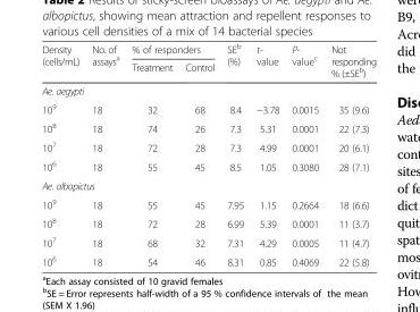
<table><thead><tr><td rowspan="2">Density (cells/mL)</td><td rowspan="2">No. of assays<sup>a</sup></td><td colspan="2">% of responders</td><td rowspan="2">SE<sup>b</sup> (%)</td><td rowspan="2">t- value</td><td rowspan="2">P- value<sup>c</sup></td><td rowspan="2">Not responding % (±SE<sup>b</sup>)</td></tr><tr><td>Treatment</td><td>Control</td></tr></thead><tbody><tr><td colspan="8">Ae. aegypti</td></tr><tr><td>10<sup>9</sup></td><td>18</td><td>32</td><td>68</td><td>8.4</td><td>−3.78</td><td>0.0015</td><td>35 (9.6)</td></tr><tr><td>10<sup>8</sup></td><td>18</td><td>74</td><td>26</td><td>7.3</td><td>5.31</td><td>0.0001</td><td>22 (7.3)</td></tr><tr><td>10<sup>7</sup></td><td>18</td><td>72</td><td>28</td><td>7.3</td><td>4.99</td><td>0.0001</td><td>20 (6.1)</td></tr><tr><td>10<sup>6</sup></td><td>18</td><td>55</td><td>45</td><td>8.5</td><td>1.05</td><td>0.3080</td><td>28 (7.1)</td></tr><tr><td colspan="8">Ae. albopictus</td></tr><tr><td>10<sup>9</sup></td><td>18</td><td>55</td><td>45</td><td>7.95</td><td>1.15</td><td>0.2664</td><td>18 (6.6)</td></tr><tr><td>10<sup>8</sup></td><td>18</td><td>72</td><td>28</td><td>6.99</td><td>5.39</td><td>0.0001</td><td>11 (3.7)</td></tr><tr><td>10<sup>7</sup></td><td>18</td><td>68</td><td>32</td><td>7.31</td><td>4.29</td><td>0.0005</td><td>11 (4.7)</td></tr><tr><td>10<sup>6</sup></td><td>18</td><td>54</td><td>46</td><td>8.31</td><td>0.85</td><td>0.4069</td><td>22 (5.8)</td></tr></tbody></table>